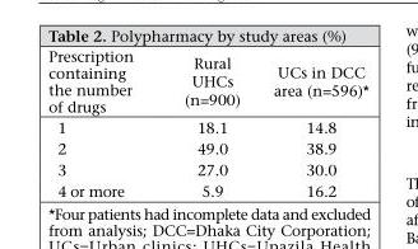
<table><thead><tr><td>Prescription containing the number of drugs</td><td>Rural UHCs (n=900)</td><td>UCs in DCC area (n=596)*</td></tr></thead><tbody><tr><td>1</td><td>18.1</td><td>14.8</td></tr><tr><td>2</td><td>49.0</td><td>38.9</td></tr><tr><td>3</td><td>27.0</td><td>30.0</td></tr><tr><td>4 or more</td><td>5.9</td><td>16.2</td></tr></tbody></table>